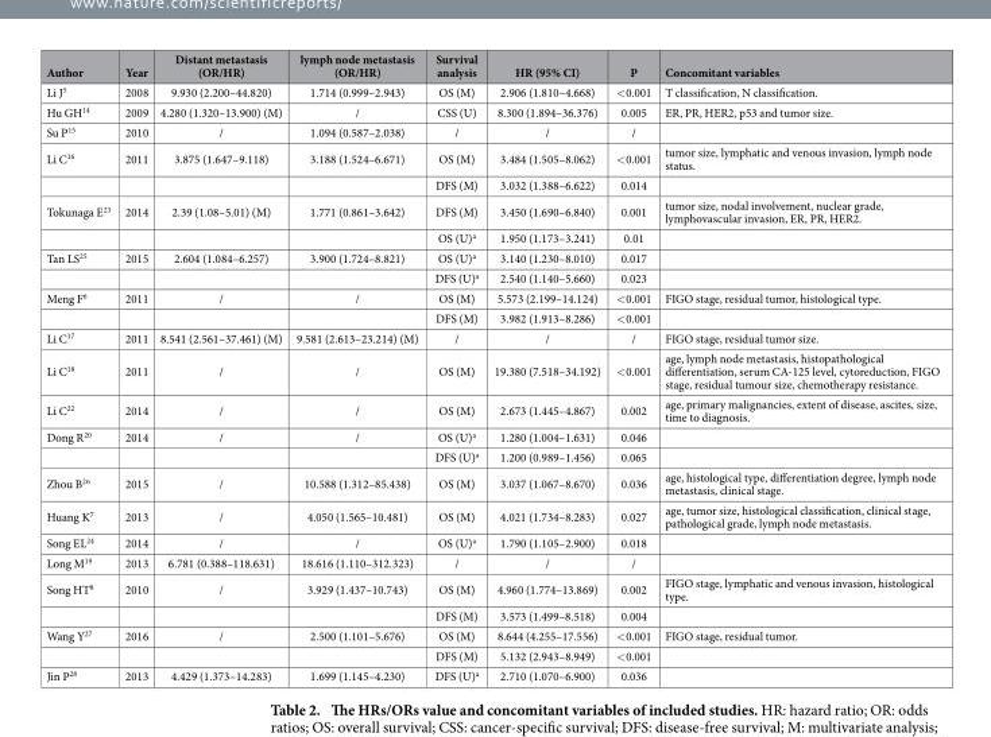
<table><thead><tr><td>Author</td><td>Year</td><td>Distant metastasis (OR/HR)</td><td>lymph node metastasis (OR/HR)</td><td>Survival analysis</td><td>HR (95% CI)</td><td>P</td><td>Concomitant variables</td></tr></thead><tbody><tr><td>Li J<sup>5</sup></td><td>2008</td><td>9.930 (2.200–44.820)</td><td>1.714 (0.999–2.943)</td><td>OS (M)</td><td>2.906 (1.810–4.668)</td><td>&lt; 0.001</td><td>T classification, N classification.</td></tr><tr><td>Hu GH<sup>14</sup></td><td>2009</td><td>4.280 (1.320–13.900) (M)</td><td>/</td><td>CSS (U)</td><td>8.300 (1.894–36.376)</td><td>0.005</td><td>ER, PR, HER2, p53 and tumor size.</td></tr><tr><td>Su P<sup>15</sup></td><td>2010</td><td>/</td><td>1.094 (0.587–2.038)</td><td>/</td><td>/</td><td>/</td><td></td></tr><tr><td rowspan="2">Li C<sup>16</sup></td><td>2011</td><td>3.875 (1.647–9.118)</td><td>3.188 (1.524–6.671)</td><td>OS (M)</td><td>3.484 (1.505–8.062)</td><td>&lt; 0.001</td><td>tumor size, lymphatic and venous invasion, lymph node status.</td></tr><tr><td></td><td></td><td></td><td>DFS (M)</td><td>3.032 (1.388–6.622)</td><td>0.014</td><td></td></tr><tr><td rowspan="2">Tokunaga E<sup>23</sup></td><td>2014</td><td>2.39 (1.08–5.01) (M)</td><td>1.771 (0.861–3.642)</td><td>DFS (M)</td><td>3.450 (1.690–6.840)</td><td>0.001</td><td>tumor size, nodal involvement, nuclear grade, lymphovascular invasion, ER, PR, HER2.</td></tr><tr><td></td><td></td><td></td><td>OS (U)<sup>a</sup></td><td>1.950 (1.173–3.241)</td><td>0.01</td><td></td></tr><tr><td rowspan="2">Tan LS<sup>25</sup></td><td>2015</td><td>2.604 (1.084–6.257)</td><td>3.900 (1.724–8.821)</td><td>OS (U)<sup>a</sup></td><td>3.140 (1.230–8.010)</td><td>0.017</td><td></td></tr><tr><td></td><td></td><td></td><td>DFS (U)<sup>a</sup></td><td>2.540 (1.140–5.660)</td><td>0.023</td><td></td></tr><tr><td rowspan="2">Meng F<sup>6</sup></td><td>2011</td><td>/</td><td>/</td><td>OS (M)</td><td>5.573 (2.199–14.124)</td><td>&lt; 0.001</td><td>FIGO stage, residual tumor, histological type.</td></tr><tr><td></td><td></td><td></td><td>DFS (M)</td><td>3.982 (1.913–8.286)</td><td>&lt; 0.001</td><td></td></tr><tr><td>Li C<sup>17</sup></td><td>2011</td><td>8.541 (2.561–37.461) (M)</td><td>9.581 (2.613–23.214) (M)</td><td>/</td><td>/</td><td>/</td><td>FIGO stage, residual tumor size.</td></tr><tr><td>Li C<sup>18</sup></td><td>2011</td><td>/</td><td>/</td><td>OS (M)</td><td>19.380 (7.518–34.192)</td><td>&lt; 0.001</td><td>age, lymph node metastasis, histopathological differentiation, serum CA-125 level, cytoreduction, FIGO stage, residual tumour size, chemotherapy resistance.</td></tr><tr><td>Li C<sup>22</sup></td><td>2014</td><td>/</td><td>/</td><td>OS (M)</td><td>2.673 (1.445–4.867)</td><td>0.002</td><td>age, primary malignancies, extent of disease, ascites, size, time to diagnosis.</td></tr><tr><td rowspan="2">Dong R<sup>20</sup></td><td>2014</td><td>/</td><td>/</td><td>OS (U)<sup>a</sup></td><td>1.280 (1.004–1.631)</td><td>0.046</td><td></td></tr><tr><td></td><td></td><td></td><td>DFS (U)<sup>a</sup></td><td>1.200 (0.989–1.456)</td><td>0.065</td><td></td></tr><tr><td>Zhou B<sup>26</sup></td><td>2015</td><td>/</td><td>10.588 (1.312–85.438)</td><td>OS (M)</td><td>3.037 (1.067–8.670)</td><td>0.036</td><td>age, histological type, differentiation degree, lymph node metastasis, clinical stage.</td></tr><tr><td>Huang K<sup>7</sup></td><td>2013</td><td>/</td><td>4.050 (1.565–10.481)</td><td>OS (M)</td><td>4.021 (1.734–8.283)</td><td>0.027</td><td>age, tumor size, histological classification, clinical stage, pathological grade, lymph node metastasis.</td></tr><tr><td>Song EL<sup>24</sup></td><td>2014</td><td>/</td><td>/</td><td>OS (U)<sup>a</sup></td><td>1.790 (1.105–2.900)</td><td>0.018</td><td></td></tr><tr><td>Long M<sup>19</sup></td><td>2013</td><td>6.781 (0.388–118.631)</td><td>18.616 (1.110–312.323)</td><td>/</td><td>/</td><td>/</td><td></td></tr><tr><td rowspan="2">Song HT<sup>8</sup></td><td>2010</td><td>/</td><td>3.929 (1.437–10.743)</td><td>OS (M)</td><td>4.960 (1.774–13.869)</td><td>0.002</td><td>FIGO stage, lymphatic and venous invasion, histological type.</td></tr><tr><td></td><td></td><td></td><td>DFS (M)</td><td>3.573 (1.499–8.518)</td><td>0.004</td><td></td></tr><tr><td rowspan="2">Wang Y<sup>27</sup></td><td>2016</td><td>/</td><td>2.500 (1.101–5.676)</td><td>OS (M)</td><td>8.644 (4.255–17.556)</td><td>&lt; 0.001</td><td>FIGO stage, residual tumor.</td></tr><tr><td></td><td></td><td></td><td>DFS (M)</td><td>5.132 (2.943–8.949)</td><td>&lt; 0.001</td><td></td></tr><tr><td>Jin P<sup>28</sup></td><td>2013</td><td>4.429 (1.373–14.283)</td><td>1.699 (1.145–4.230)</td><td>DFS (U)<sup>a</sup></td><td>2.710 (1.070–6.900)</td><td>0.036</td><td></td></tr></tbody></table>